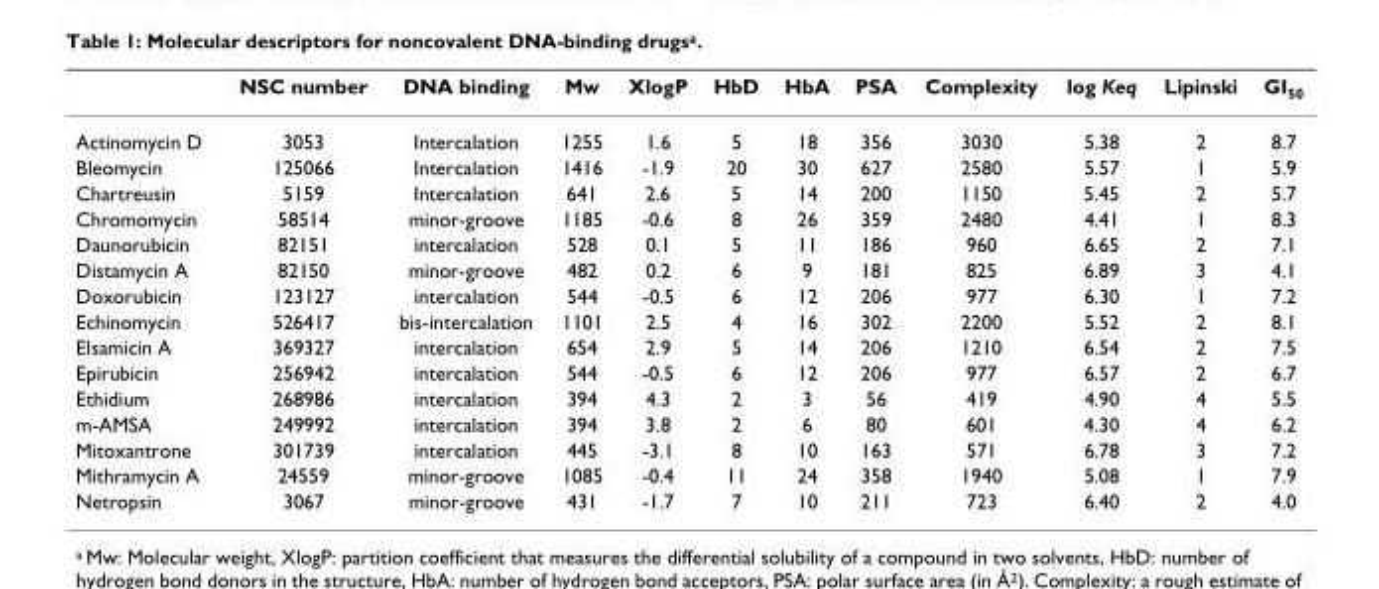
<table><thead><tr><td></td><td>NSC number</td><td>DNA binding</td><td>Mw</td><td>XlogP</td><td>HbD</td><td>HbA</td><td>PSA</td><td>Complexity</td><td>log Keq</td><td>Lipinski</td><td>GI<sub>50</sub></td></tr></thead><tbody><tr><td>Actinomycin D</td><td>3053</td><td>Intercalation</td><td>1255</td><td>1.6</td><td>5</td><td>18</td><td>356</td><td>3030</td><td>5.38</td><td>2</td><td>8.7</td></tr><tr><td>Bleomycin</td><td>125066</td><td>Intercalation</td><td>1416</td><td>-1.9</td><td>20</td><td>30</td><td>627</td><td>2580</td><td>5.57</td><td>1</td><td>5.9</td></tr><tr><td>Chartreusin</td><td>5159</td><td>Intercalation</td><td>641</td><td>2.6</td><td>5</td><td>14</td><td>200</td><td>1150</td><td>5.45</td><td>2</td><td>5.7</td></tr><tr><td>Chromomycin</td><td>58514</td><td>minor-groove</td><td>1185</td><td>-0.6</td><td>8</td><td>26</td><td>359</td><td>2480</td><td>4.41</td><td>1</td><td>8.3</td></tr><tr><td>Daunorubicin</td><td>82151</td><td>intercalation</td><td>528</td><td>0.1</td><td>5</td><td>11</td><td>186</td><td>960</td><td>6.65</td><td>2</td><td>7.1</td></tr><tr><td>Distamycin A</td><td>82150</td><td>minor-groove</td><td>482</td><td>0.2</td><td>6</td><td>9</td><td>181</td><td>825</td><td>6.89</td><td>3</td><td>4.1</td></tr><tr><td>Doxorubicin</td><td>123127</td><td>intercalation</td><td>544</td><td>-0.5</td><td>6</td><td>12</td><td>206</td><td>977</td><td>6.30</td><td>1</td><td>7.2</td></tr><tr><td>Echinomycin</td><td>526417</td><td>bis-intercalation</td><td>1101</td><td>2.5</td><td>4</td><td>16</td><td>302</td><td>2200</td><td>5.52</td><td>2</td><td>8.1</td></tr><tr><td>Elsamicin A</td><td>369327</td><td>intercalation</td><td>654</td><td>2.9</td><td>5</td><td>14</td><td>206</td><td>1210</td><td>6.54</td><td>2</td><td>7.5</td></tr><tr><td>Epirubicin</td><td>256942</td><td>intercalation</td><td>544</td><td>-0.5</td><td>6</td><td>12</td><td>206</td><td>977</td><td>6.57</td><td>2</td><td>6.7</td></tr><tr><td>Ethidium</td><td>268986</td><td>intercalation</td><td>394</td><td>4.3</td><td>2</td><td>3</td><td>56</td><td>419</td><td>4.90</td><td>4</td><td>5.5</td></tr><tr><td>m-AMSA</td><td>249992</td><td>intercalation</td><td>394</td><td>3.8</td><td>2</td><td>6</td><td>80</td><td>601</td><td>4.30</td><td>4</td><td>6.2</td></tr><tr><td>Mitoxantrone</td><td>301739</td><td>intercalation</td><td>445</td><td>-3.1</td><td>8</td><td>10</td><td>163</td><td>571</td><td>6.78</td><td>3</td><td>7.2</td></tr><tr><td>Mithramycin A</td><td>24559</td><td>minor-groove</td><td>1085</td><td>-0.4</td><td>11</td><td>24</td><td>358</td><td>1940</td><td>5.08</td><td>1</td><td>7.9</td></tr><tr><td>Netropsin</td><td>3067</td><td>minor-groove</td><td>431</td><td>-1.7</td><td>7</td><td>10</td><td>211</td><td>723</td><td>6.40</td><td>2</td><td>4.0</td></tr></tbody></table>